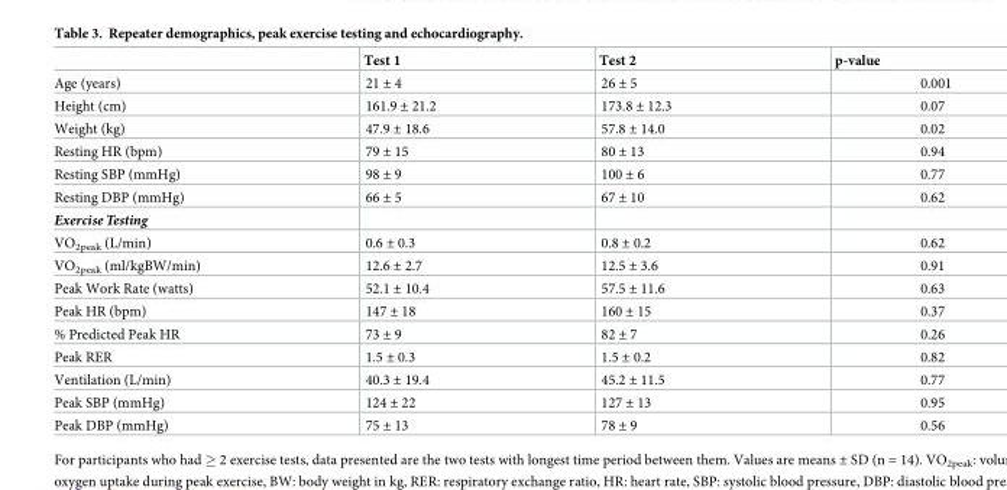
<table><thead><tr><td></td><td>Test 1</td><td>Test 2</td><td>p-value</td></tr></thead><tbody><tr><td>Age (years)</td><td>21 ± 4</td><td>26 ± 5</td><td>0.001</td></tr><tr><td>Height (cm)</td><td>161.9 ± 21.2</td><td>173.8 ± 12.3</td><td>0.07</td></tr><tr><td>Weight (kg)</td><td>47.9 ± 18.6</td><td>57.8 ± 14.0</td><td>0.02</td></tr><tr><td>Resting HR (bpm)</td><td>79 ± 15</td><td>80 ± 13</td><td>0.94</td></tr><tr><td>Resting SBP (mmHg)</td><td>98 ± 9</td><td>100 ± 6</td><td>0.77</td></tr><tr><td>Resting DBP (mmHg)</td><td>66 ± 5</td><td>67 ± 10</td><td>0.62</td></tr><tr><td colspan="4">ExerciseTesting</td></tr><tr><td>VO<sub>2peak</sub> (L/min)</td><td>0.6 ± 0.3</td><td>0.8 ± 0.2</td><td>0.62</td></tr><tr><td>VO<sub>2peak</sub> (ml/kgBW/min)</td><td>12.6 ± 2.7</td><td>12.5 ± 3.6</td><td>0.91</td></tr><tr><td>Peak Work Rate (watts)</td><td>52.1 ± 10.4</td><td>57.5 ± 11.6</td><td>0.63</td></tr><tr><td>Peak HR (bpm)</td><td>147 ± 18</td><td>160 ± 15</td><td>0.37</td></tr><tr><td>% Predicted Peak HR</td><td>73 ± 9</td><td>82 ± 7</td><td>0.26</td></tr><tr><td>Peak RER</td><td>1.5 ± 0.3</td><td>1.5 ± 0.2</td><td>0.82</td></tr><tr><td>Ventilation (L/min)</td><td>40.3 ± 19.4</td><td>45.2 ± 11.5</td><td>0.77</td></tr><tr><td>Peak SBP (mmHg)</td><td>124 ± 22</td><td>127 ± 13</td><td>0.95</td></tr><tr><td>Peak DBP (mmHg)</td><td>75 ± 13</td><td>78 ± 9</td><td>0.56</td></tr></tbody></table>